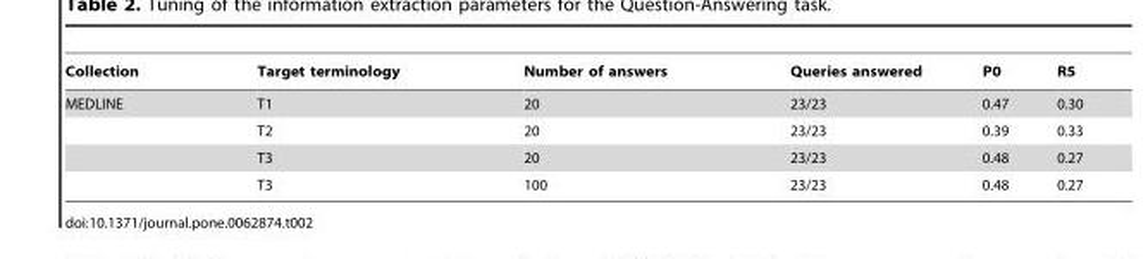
<table><thead><tr><td>Collection</td><td>Target terminology</td><td>Number of answers</td><td>Queries answered</td><td>P0</td><td>R5</td></tr></thead><tbody><tr><td rowspan="4">MEDLINE</td><td>T1</td><td>20</td><td>23/23</td><td>0.47</td><td>0.30</td></tr><tr><td>T2</td><td>20</td><td>23/23</td><td>0.39</td><td>0.33</td></tr><tr><td>T3</td><td>20</td><td>23/23</td><td>0.48</td><td>0.27</td></tr><tr><td>T3</td><td>100</td><td>23/23</td><td>0.48</td><td>0.27</td></tr></tbody></table>